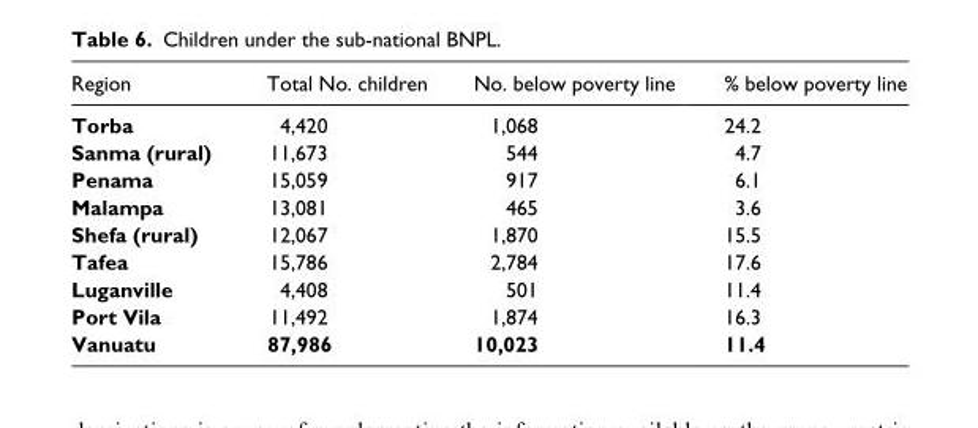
<table><thead><tr><td>Region</td><td>Total No. children</td><td>No. below poverty line</td><td>% below poverty line</td></tr></thead><tbody><tr><td>Torba</td><td>4,420</td><td>1,068</td><td>24.2</td></tr><tr><td>Sanma (rural)</td><td>11,673</td><td>544</td><td>4.7</td></tr><tr><td>Penama</td><td>15,059</td><td>917</td><td>6.1</td></tr><tr><td>Malampa</td><td>13,081</td><td>465</td><td>3.6</td></tr><tr><td>Shefa (rural)</td><td>12,067</td><td>1,870</td><td>15.5</td></tr><tr><td>Tafea</td><td>15,786</td><td>2,784</td><td>17.6</td></tr><tr><td>Luganville</td><td>4,408</td><td>501</td><td>11.4</td></tr><tr><td>Port Vila</td><td>11,492</td><td>1,874</td><td>16.3</td></tr><tr><td>Vanuatu</td><td>87,986</td><td>10,023</td><td>11.4</td></tr></tbody></table>